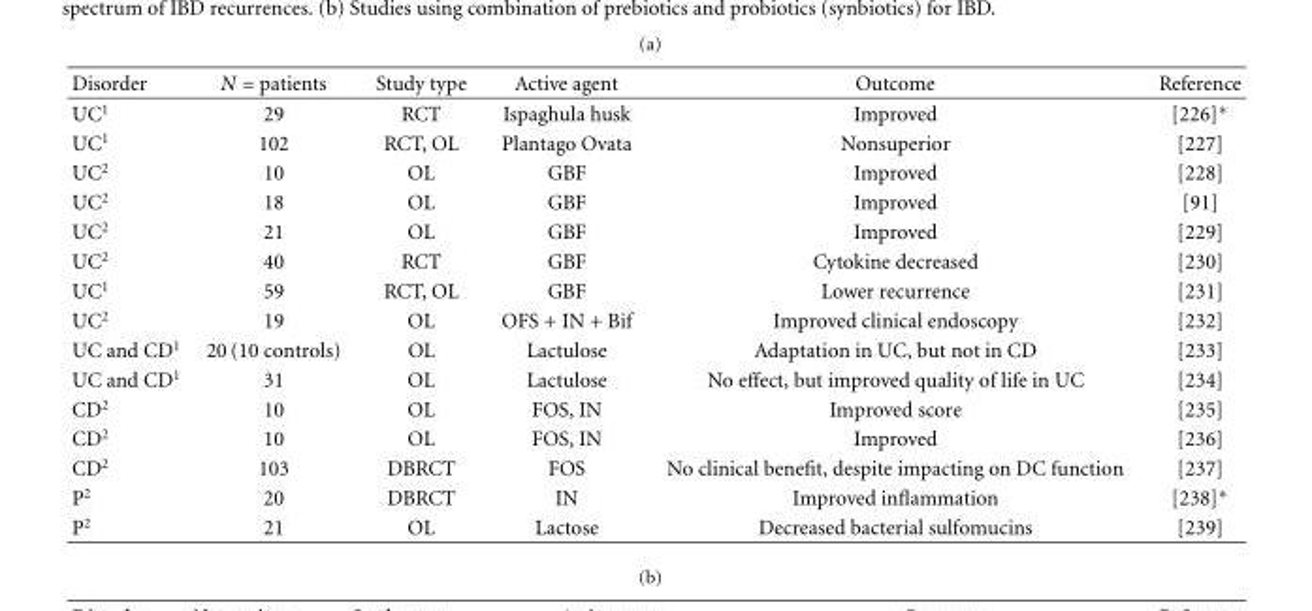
<table><thead><tr><td>Disorder</td><td>N = patients</td><td>Study type</td><td>Active agent</td><td>Outcome</td><td>Reference</td></tr></thead><tbody><tr><td>UC<sup>1</sup></td><td>29</td><td>RCT</td><td>Ispaghula husk</td><td>Improved</td><td>[226]∗</td></tr><tr><td>UC<sup>1</sup></td><td>102</td><td>RCT, OL</td><td>Plantago Ovata</td><td>Nonsuperior</td><td>[227]</td></tr><tr><td>UC<sup>2</sup></td><td>10</td><td>OL</td><td>GBF</td><td>Improved</td><td>[228]</td></tr><tr><td>UC<sup>2</sup></td><td>18</td><td>OL</td><td>GBF</td><td>Improved</td><td>[91]</td></tr><tr><td>UC<sup>2</sup></td><td>21</td><td>OL</td><td>GBF</td><td>Improved</td><td>[229]</td></tr><tr><td>UC<sup>2</sup></td><td>40</td><td>RCT</td><td>GBF</td><td>Cytokine decreased</td><td>[230]</td></tr><tr><td>UC<sup>1</sup></td><td>59</td><td>RCT, OL</td><td>GBF</td><td>Lower recurrence</td><td>[231]</td></tr><tr><td>UC<sup>2</sup></td><td>19</td><td>OL</td><td>OFS + IN + Bif</td><td>Improved clinical endoscopy</td><td>[232]</td></tr><tr><td>UC and CD<sup>1</sup></td><td>20 (10 controls)</td><td>OL</td><td>Lactulose</td><td>Adaptation in UC, but not in CD</td><td>[233]</td></tr><tr><td>UC and CD<sup>1</sup></td><td>31</td><td>OL</td><td>Lactulose</td><td>No effect, but improved quality of life in UC</td><td>[234]</td></tr><tr><td>CD<sup>2</sup></td><td>10</td><td>OL</td><td>FOS, IN</td><td>Improved score</td><td>[235]</td></tr><tr><td>CD<sup>2</sup></td><td>10</td><td>OL</td><td>FOS, IN</td><td>Improved</td><td>[236]</td></tr><tr><td>CD<sup>2</sup></td><td>103</td><td>DBRCT</td><td>FOS</td><td>No clinical benefit, despite impacting on DC function</td><td>[237]</td></tr><tr><td>P<sup>2</sup></td><td>20</td><td>DBRCT</td><td>IN</td><td>Improved inflammation</td><td>[238]∗</td></tr><tr><td>P<sup>2</sup></td><td>21</td><td>OL</td><td>Lactose</td><td>Decreased bacterial sulfomucins</td><td>[239]</td></tr></tbody></table>